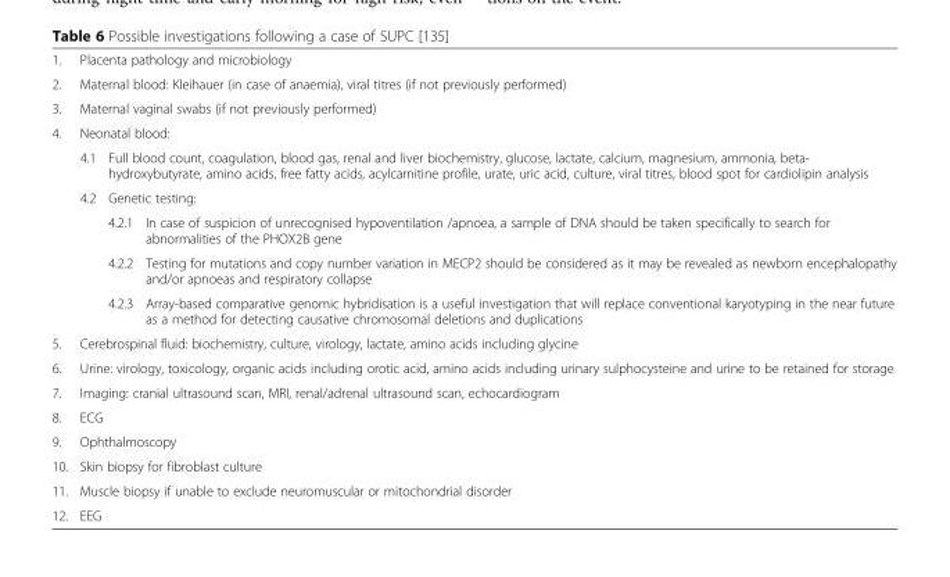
<table><tbody><tr><td>1.</td><td colspan="3">Placenta pathology and microbiology</td></tr><tr><td>2.</td><td colspan="3">Maternal blood: Kleihauer (in case of anaemia), viral titres (if not previously performed)</td></tr><tr><td>3.</td><td colspan="3">Maternal vaginal swabs (if not previously performed)</td></tr><tr><td rowspan="6">4.</td><td colspan="3">Neonatal blood:</td></tr><tr><td>4.1</td><td colspan="2">Full blood count, coagulation, blood gas, renal and liver biochemistry, glucose, lactate, calcium, magnesium, ammonia, beta- hydroxybutyrate, amino acids, free fatty acids, acylcarnitine profile, urate, uric acid, culture, viral titres, blood spot for cardiolipin analysis</td></tr><tr><td>4.2</td><td colspan="2">Genetic testing:</td></tr><tr><td></td><td>4.2.1</td><td>In case of suspicion of unrecognised hypoventilation /apnoea, a sample of DNA should be taken specifically to search for abnormalities of the PHOX2B gene</td></tr><tr><td></td><td>4.2.2</td><td>Testing for mutations and copy number variation in MECP2 should be considered as it may be revealed as newborn encephalopathy and/or apnoeas and respiratory collapse</td></tr><tr><td></td><td>4.2.3</td><td>Array-based comparative genomic hybridisation is a useful investigation that will replace conventional karyotyping in the near future as a method for detecting causative chromosomal deletions and duplications</td></tr><tr><td>5.</td><td colspan="3">Cerebrospinal fluid: biochemistry, culture, virology, lactate, amino acids including glycine</td></tr><tr><td>6.</td><td colspan="3">Urine: virology, toxicology, organic acids including orotic acid, amino acids including urinary sulphocysteine and urine to be retained for storage</td></tr><tr><td>7.</td><td colspan="3">Imaging: cranial ultrasound scan, MRI, renal/adrenal ultrasound scan, echocardiogram</td></tr><tr><td>8.</td><td colspan="3">ECG</td></tr><tr><td>9.</td><td colspan="3">Ophthalmoscopy</td></tr><tr><td>10.</td><td colspan="3">Skin biopsy for fibroblast culture</td></tr><tr><td>11.</td><td colspan="3">Muscle biopsy if unable to exclude neuromuscular or mitochondrial disorder</td></tr><tr><td>12.</td><td colspan="3">EEG</td></tr></tbody></table>